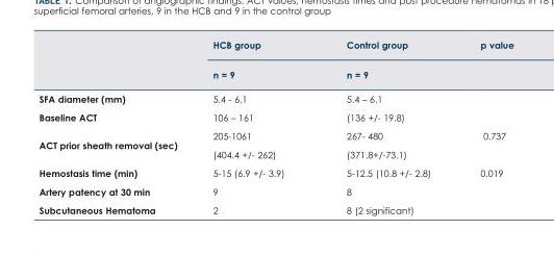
<table><thead><tr><td rowspan="2"></td><td rowspan="2">HCB group n = 9</td><td rowspan="2">Control group n = 9</td><td rowspan="2">p value</td></tr><tr></tr></thead><tbody><tr><td>SFA diameter (mm)</td><td>5.4 - 6.1</td><td>5.4 – 6.1</td><td></td></tr><tr><td>Baseline ACT</td><td>106 – 161</td><td>(136 +/- 19.8)</td><td></td></tr><tr><td rowspan="2">ACT prior sheath removal (sec)</td><td>205-1061</td><td>267- 480</td><td rowspan="2">0.737</td></tr><tr><td>(404.4 +/- 262)</td><td>(371.8+/-73.1)</td></tr><tr><td>Hemostasis time (min)</td><td>5-15 (6.9 +/- 3.9)</td><td>5-12.5 (10.8 +/- 2.8)</td><td>0.019</td></tr><tr><td>Artery patency at 30 min</td><td>9</td><td>8</td><td></td></tr><tr><td>Subcutaneous Hematoma</td><td>2</td><td>8 (2 significant)</td><td></td></tr></tbody></table>